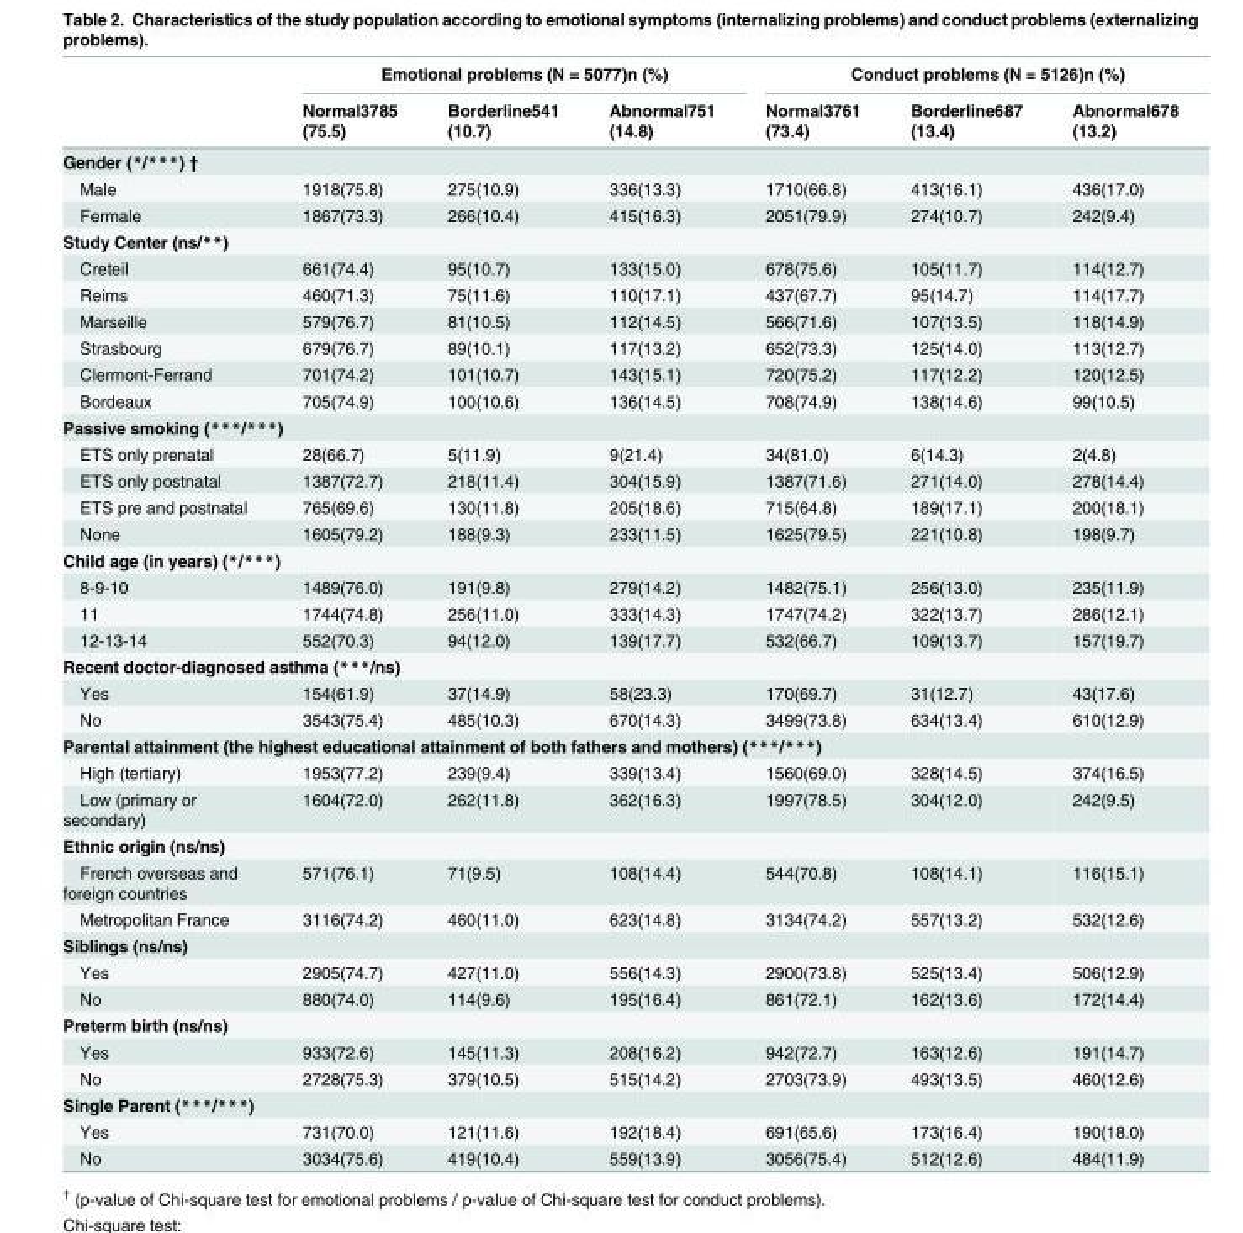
<table><thead><tr><td rowspan="2"></td><td colspan="3">Emotional problems (N = 5077)n (%)</td><td colspan="3">Conduct problems (N = 5126)n (%)</td></tr><tr><td>Normal3785 (75.5)</td><td>Borderline541 (10.7)</td><td>Abnormal751 (14.8)</td><td>Normal3761 (73.4)</td><td>Borderline687 (13.4)</td><td>Abnormal678 (13.2)</td></tr></thead><tbody><tr><td colspan="7">Gender (*/***) †</td></tr><tr><td>Male</td><td>1918(75.8)</td><td>275(10.9)</td><td>336(13.3)</td><td>1710(66.8)</td><td>413(16.1)</td><td>436(17.0)</td></tr><tr><td>Fermale</td><td>1867(73.3)</td><td>266(10.4)</td><td>415(16.3)</td><td>2051(79.9)</td><td>274(10.7)</td><td>242(9.4)</td></tr><tr><td colspan="7">Study Center (ns/**)</td></tr><tr><td>Creteil</td><td>661(74.4)</td><td>95(10.7)</td><td>133(15.0)</td><td>678(75.6)</td><td>105(11.7)</td><td>114(12.7)</td></tr><tr><td>Reims</td><td>460(71.3)</td><td>75(11.6)</td><td>110(17.1)</td><td>437(67.7)</td><td>95(14.7)</td><td>114(17.7)</td></tr><tr><td>Marseille</td><td>579(76.7)</td><td>81(10.5)</td><td>112(14.5)</td><td>566(71.6)</td><td>107(13.5)</td><td>118(14.9)</td></tr><tr><td>Strasbourg</td><td>679(76.7)</td><td>89(10.1)</td><td>117(13.2)</td><td>652(73.3)</td><td>125(14.0)</td><td>113(12.7)</td></tr><tr><td>Clermont-Ferrand</td><td>701(74.2)</td><td>101(10.7)</td><td>143(15.1)</td><td>720(75.2)</td><td>117(12.2)</td><td>120(12.5)</td></tr><tr><td>Bordeaux</td><td>705(74.9)</td><td>100(10.6)</td><td>136(14.5)</td><td>708(74.9)</td><td>138(14.6)</td><td>99(10.5)</td></tr><tr><td colspan="7">Passive smoking (***/***)</td></tr><tr><td>ETS only prenatal</td><td>28(66.7)</td><td>5(11.9)</td><td>9(21.4)</td><td>34(81.0)</td><td>6(14.3)</td><td>2(4.8)</td></tr><tr><td>ETS only postnatal</td><td>1387(72.7)</td><td>218(11.4)</td><td>304(15.9)</td><td>1387(71.6)</td><td>271(14.0)</td><td>278(14.4)</td></tr><tr><td>ETS pre and postnatal</td><td>765(69.6)</td><td>130(11.8)</td><td>205(18.6)</td><td>715(64.8)</td><td>189(17.1)</td><td>200(18.1)</td></tr><tr><td>None</td><td>1605(79.2)</td><td>188(9.3)</td><td>233(11.5)</td><td>1625(79.5)</td><td>221(10.8)</td><td>198(9.7)</td></tr><tr><td colspan="7">Child age (in years) (*/***)</td></tr><tr><td>8-9-10</td><td>1489(76.0)</td><td>191(9.8)</td><td>279(14.2)</td><td>1482(75.1)</td><td>256(13.0)</td><td>235(11.9)</td></tr><tr><td>11</td><td>1744(74.8)</td><td>256(11.0)</td><td>333(14.3)</td><td>1747(74.2)</td><td>322(13.7)</td><td>286(12.1)</td></tr><tr><td>12-13-14</td><td>552(70.3)</td><td>94(12.0)</td><td>139(17.7)</td><td>532(66.7)</td><td>109(13.7)</td><td>157(19.7)</td></tr><tr><td colspan="7">Recent doctor-diagnosed asthma (***/ns)</td></tr><tr><td>Yes</td><td>154(61.9)</td><td>37(14.9)</td><td>58(23.3)</td><td>170(69.7)</td><td>31(12.7)</td><td>43(17.6)</td></tr><tr><td>No</td><td>3543(75.4)</td><td>485(10.3)</td><td>670(14.3)</td><td>3499(73.8)</td><td>634(13.4)</td><td>610(12.9)</td></tr><tr><td colspan="7">Parental attainment (the highest educational attainment of both fathers and mothers) (***/***)</td></tr><tr><td>High (tertiary)</td><td>1953(77.2)</td><td>239(9.4)</td><td>339(13.4)</td><td>1560(69.0)</td><td>328(14.5)</td><td>374(16.5)</td></tr><tr><td>Low (primary or secondary)</td><td>1604(72.0)</td><td>262(11.8)</td><td>362(16.3)</td><td>1997(78.5)</td><td>304(12.0)</td><td>242(9.5)</td></tr><tr><td colspan="7">Ethnic origin (ns/ns)</td></tr><tr><td>French overseas and foreign countries</td><td>571(76.1)</td><td>71(9.5)</td><td>108(14.4)</td><td>544(70.8)</td><td>108(14.1)</td><td>116(15.1)</td></tr><tr><td>Metropolitan France</td><td>3116(74.2)</td><td>460(11.0)</td><td>623(14.8)</td><td>3134(74.2)</td><td>557(13.2)</td><td>532(12.6)</td></tr><tr><td colspan="7">Siblings (ns/ns)</td></tr><tr><td>Yes</td><td>2905(74.7)</td><td>427(11.0)</td><td>556(14.3)</td><td>2900(73.8)</td><td>525(13.4)</td><td>506(12.9)</td></tr><tr><td>No</td><td>880(74.0)</td><td>114(9.6)</td><td>195(16.4)</td><td>861(72.1)</td><td>162(13.6)</td><td>172(14.4)</td></tr><tr><td colspan="7">Preterm birth (ns/ns)</td></tr><tr><td>Yes</td><td>933(72.6)</td><td>145(11.3)</td><td>208(16.2)</td><td>942(72.7)</td><td>163(12.6)</td><td>191(14.7)</td></tr><tr><td>No</td><td>2728(75.3)</td><td>379(10.5)</td><td>515(14.2)</td><td>2703(73.9)</td><td>493(13.5)</td><td>460(12.6)</td></tr><tr><td colspan="7">Single Parent (***/***)</td></tr><tr><td>Yes</td><td>731(70.0)</td><td>121(11.6)</td><td>192(18.4)</td><td>691(65.6)</td><td>173(16.4)</td><td>190(18.0)</td></tr><tr><td>No</td><td>3034(75.6)</td><td>419(10.4)</td><td>559(13.9)</td><td>3056(75.4)</td><td>512(12.6)</td><td>484(11.9)</td></tr></tbody></table>